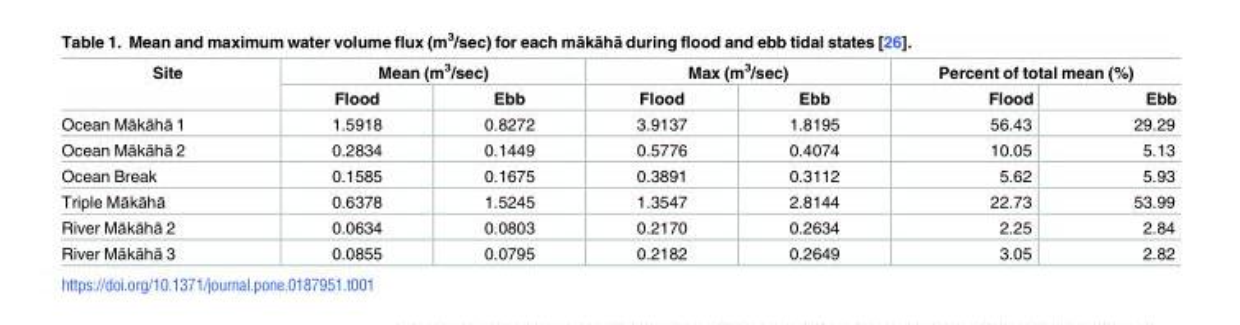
<table><thead><tr><td rowspan="2">Site</td><td colspan="2">Mean (m<sup>3</sup>/sec)</td><td colspan="2">Max (m<sup>3</sup>/sec)</td><td colspan="2">Percent of total mean (%)</td></tr><tr><td>Flood</td><td>Ebb</td><td>Flood</td><td>Ebb</td><td>Flood</td><td>Ebb</td></tr></thead><tbody><tr><td>Ocean Mākāhā 1</td><td>1.5918</td><td>0.8272</td><td>3.9137</td><td>1.8195</td><td>56.43</td><td>29.29</td></tr><tr><td>Ocean Mākāhā 2</td><td>0.2834</td><td>0.1449</td><td>0.5776</td><td>0.4074</td><td>10.05</td><td>5.13</td></tr><tr><td>Ocean Break</td><td>0.1585</td><td>0.1675</td><td>0.3891</td><td>0.3112</td><td>5.62</td><td>5.93</td></tr><tr><td>Triple Mākāhā</td><td>0.6378</td><td>1.5245</td><td>1.3547</td><td>2.8144</td><td>22.73</td><td>53.99</td></tr><tr><td>River Mākāhā 2</td><td>0.0634</td><td>0.0803</td><td>0.2170</td><td>0.2634</td><td>2.25</td><td>2.84</td></tr><tr><td>River Mākāhā 3</td><td>0.0855</td><td>0.0795</td><td>0.2182</td><td>0.2649</td><td>3.05</td><td>2.82</td></tr></tbody></table>